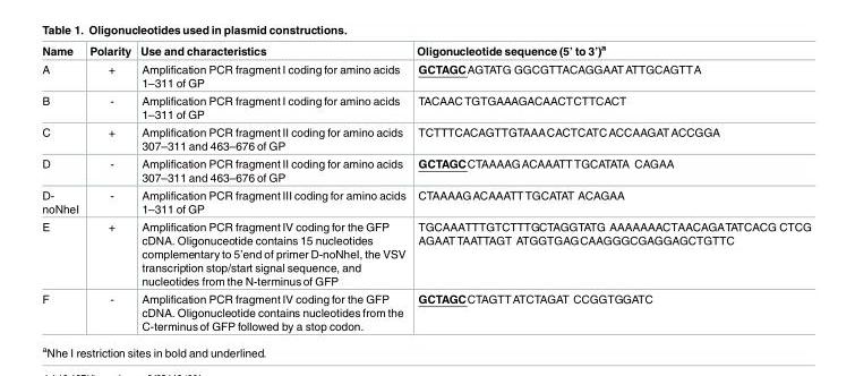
<table><thead><tr><td>Name</td><td>Polarity</td><td>Use and characteristics</td><td>Oligonucleotide sequence (5’ to 3’)<sup>a</sup></td></tr></thead><tbody><tr><td>A</td><td>+</td><td>Amplification PCR fragment I coding for amino acids 1–311 of GP</td><td>GCTAGCAGTATG GGCGTTACAGGAATATTGCAGTTA</td></tr><tr><td>B</td><td>-</td><td>Amplification PCR fragment I coding for amino acids 1–311 of GP</td><td>TACAACTGTGAAAGACAACTCTTCACT</td></tr><tr><td>C</td><td>+</td><td>Amplification PCR fragment II coding for amino acids 307–311 and 463–676 of GP</td><td>TCTTTCACAGTTGTAAACACTCATCACCAAGATACCGGA</td></tr><tr><td>D</td><td>-</td><td>Amplification PCR fragment II coding for amino acids 307–311 and 463–676 of GP</td><td>GCTAGCCTAAAAGACAAATTTGCATATA CAGAA</td></tr><tr><td>D- noNheI</td><td>-</td><td>Amplification PCR fragment III coding for amino acids 1–311 of GP</td><td>CTAAAAGACAAATTTGCATAT ACAGAA</td></tr><tr><td>E</td><td>+</td><td>Amplification PCR fragment IV coding for the GFP cDNA. Oligonuceotide contains 15 nucleotides complementary to 5’end of primer D-noNheI, the VSV transcription stop/start signal sequence, and nucleotides from the N-terminusof GFP</td><td>TGCAAATTTGTCTTTGCTAGGTATG AAAAAAACTAACAGATATCACG CTCG AGAATTAATTAGT ATGGTGAGCAAGGGCGAGGAGCTGTTC</td></tr><tr><td>F</td><td>-</td><td>Amplification PCR fragment IV coding for the GFP cDNA. Oligonucleotide contains nucleotides from the C-terminusof GFP followed by a stop codon.</td><td>GCTAGCCTAGTTATCTAGAT CCGGTGGATC</td></tr></tbody></table>